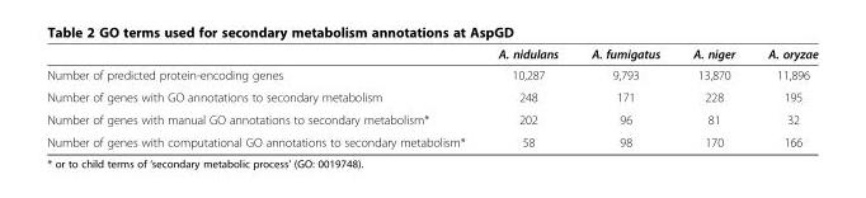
<table><thead><tr><td></td><td>A. nidulans</td><td>A. fumigatus</td><td>A. niger</td><td>A. oryzae</td></tr></thead><tbody><tr><td>Number of predicted protein-encoding genes</td><td>10,287</td><td>9,793</td><td>13,870</td><td>11,896</td></tr><tr><td>Number of genes with GO annotations to secondary metabolism</td><td>248</td><td>171</td><td>228</td><td>195</td></tr><tr><td>Number of genes with manual GO annotations to secondary metabolism*</td><td>202</td><td>96</td><td>81</td><td>32</td></tr><tr><td>Number of genes with computational GO annotations to secondary metabolism*</td><td>58</td><td>98</td><td>170</td><td>166</td></tr></tbody></table>